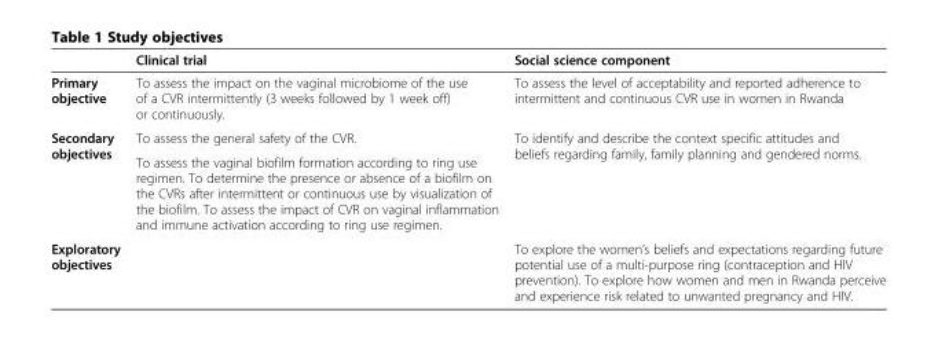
<table><thead><tr><td></td><td>Clinical trial</td><td>Social science component</td></tr></thead><tbody><tr><td>Primary objective</td><td>To assess the impact on the vaginal microbiome of the use of a CVR intermittently (3 weeks followed by 1 week off) or continuously.</td><td>To assess the level of acceptability and reported adherence to intermittent and continuous CVR use in women in Rwanda</td></tr><tr><td rowspan="2">Secondary objectives</td><td>To assess the general safety of the CVR.</td><td rowspan="2">To identify and describe the context specific attitudes and beliefs regarding family, family planning and gendered norms.</td></tr><tr><td>To assess the vaginal biofilm formation according to ring use regimen. To determine the presence or absence of a biofilm on the CVRs after intermittent or continuous use by visualization of the biofilm. To assess the impact of CVR on vaginal inflammation and immune activation according to ring use regimen.</td></tr><tr><td>Exploratory objectives</td><td></td><td>To explore the women’s beliefs and expectations regarding future potential use of a multi-purpose ring (contraception and HIV prevention). To explore how women and men in Rwanda perceive and experience risk related to unwanted pregnancy and HIV.</td></tr></tbody></table>